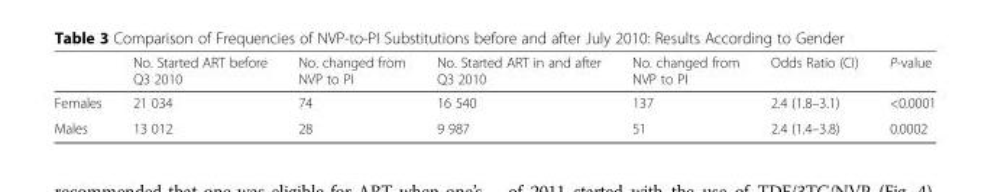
<table><thead><tr><td></td><td>No. Started ART before Q3 2010</td><td>No. changed from NVP to PI</td><td>No. Started ART in and after Q3 2010</td><td>No. changed from NVP to PI</td><td>Odds Ratio (CI)</td><td>P-value</td></tr></thead><tbody><tr><td>Females</td><td>21 034</td><td>74</td><td>16 540</td><td>137</td><td>2.4 (1.8–3.1)</td><td>&lt;0.0001</td></tr><tr><td>Males</td><td>13 012</td><td>28</td><td>9 987</td><td>51</td><td>2.4 (1.4–3.8)</td><td>0.0002</td></tr></tbody></table>